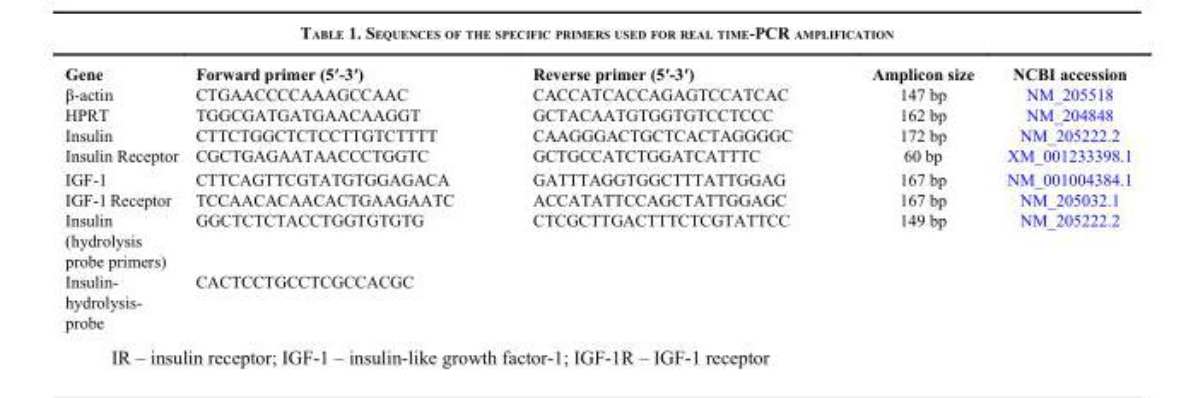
<table><thead><tr><td>Gene</td><td>Forward primer (5′-3′)</td><td>Reverse primer (5′-3′)</td><td>Amplicon size</td><td>NCBI accession</td></tr></thead><tbody><tr><td>β-actin</td><td>CTGAACCCCAAAGCCAAC</td><td>CACCATCACCAGAGTCCATCAC</td><td>147 bp</td><td>NM_205518</td></tr><tr><td>HPRT</td><td>TGGCGATGATGAACAAGGT</td><td>GCTACAATGTGGTGTCCTCCC</td><td>162 bp</td><td>NM_204848</td></tr><tr><td>Insulin</td><td>CTTCTGGCTCTCCTTGTCTTTT</td><td>CAAGGGACTGCTCACTAGGGGC</td><td>172 bp</td><td>NM_205222.2</td></tr><tr><td>Insulin Receptor</td><td>CGCTGAGAATAACCCTGGTC</td><td>GCTGCCATCTGGATCATTTC</td><td>60 bp</td><td>XM_001233398.1</td></tr><tr><td>IGF-1</td><td>CTTCAGTTCGTATGTGGAGACA</td><td>GATTTAGGTGGCTTTATTGGAG</td><td>167 bp</td><td>NM_001004384.1</td></tr><tr><td>IGF-1 Receptor</td><td>TCCAACACAACACTGAAGAATC</td><td>ACCATATTCCAGCTATTGGAGC</td><td>167 bp</td><td>NM_205032.1</td></tr><tr><td>Insulin (hydrolysis probe primers)</td><td>GGCTCTCTACCTGGTGTGTG</td><td>CTCGCTTGACTTTCTCGTATTCC</td><td>149 bp</td><td>NM_205222.2</td></tr><tr><td>Insulin- hydrolysis- probe</td><td>CACTCCTGCCTCGCCACGC</td><td></td><td></td><td></td></tr></tbody></table>